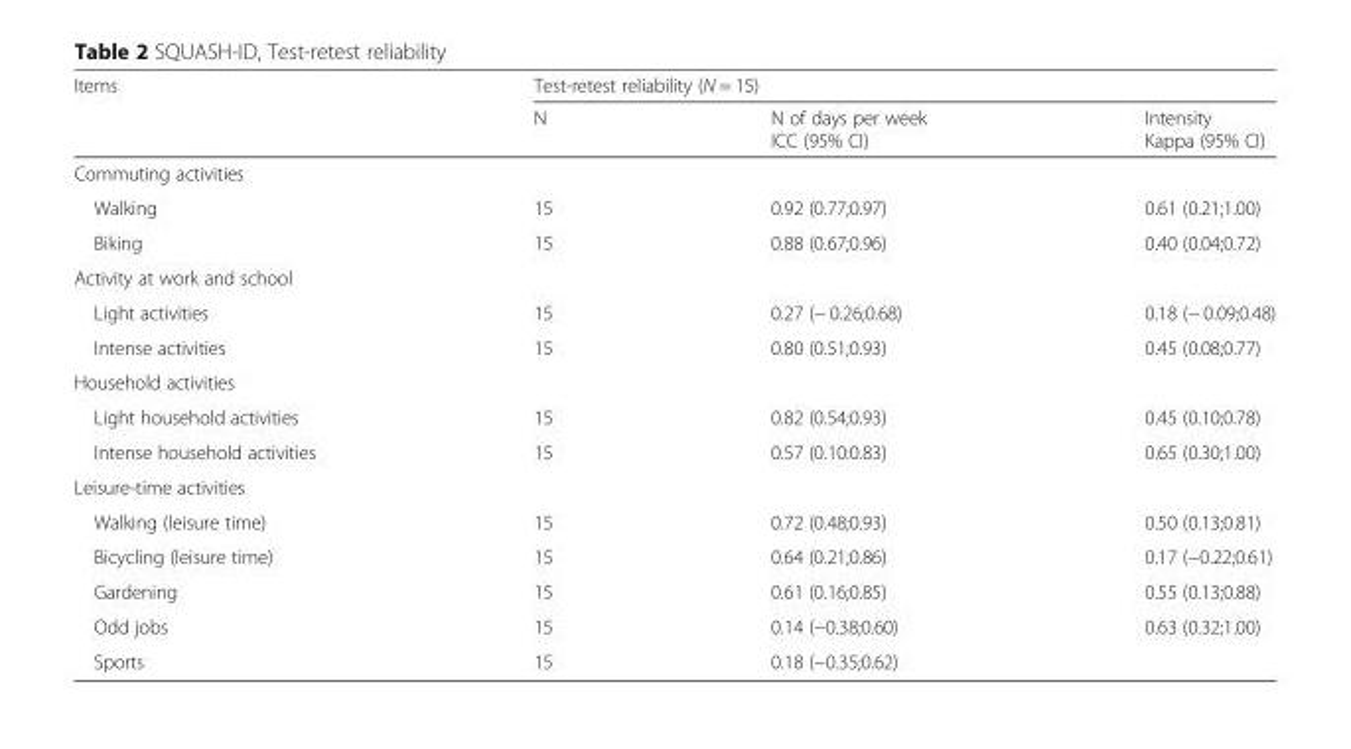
<table><thead><tr><td rowspan="2">Items</td><td colspan="3">Test-retest reliability (N = 15)</td></tr><tr><td>N</td><td>N of days per week ICC (95% CI)</td><td>Intensity Kappa (95% CI)</td></tr></thead><tbody><tr><td colspan="4">Commuting activities</td></tr><tr><td>Walking</td><td>15</td><td>0.92 (0.77;0.97)</td><td>0.61 (0.21;1.00)</td></tr><tr><td>Biking</td><td>15</td><td>0.88 (0.67;0.96)</td><td>0.40 (0.04;0.72)</td></tr><tr><td colspan="4">Activity at work and school</td></tr><tr><td>Light activities</td><td>15</td><td>0.27 (− 0.26;0.68)</td><td>0.18 (− 0.09;0.48)</td></tr><tr><td>Intense activities</td><td>15</td><td>0.80 (0.51;0.93)</td><td>0.45 (0.08;0.77)</td></tr><tr><td colspan="4">Household activities</td></tr><tr><td>Light household activities</td><td>15</td><td>0.82 (0.54;0.93)</td><td>0.45 (0.10;0.78)</td></tr><tr><td>Intense household activities</td><td>15</td><td>0.57 (0.10:0.83)</td><td>0.65 (0.30;1.00)</td></tr><tr><td colspan="4">Leisure-time activities</td></tr><tr><td>Walking (leisure time)</td><td>15</td><td>0.72 (0.48;0.93)</td><td>0.50 (0.13;0.81)</td></tr><tr><td>Bicycling (leisure time)</td><td>15</td><td>0.64 (0.21;0.86)</td><td>0.17 (−0.22;0.61)</td></tr><tr><td>Gardening</td><td>15</td><td>0.61 (0.16;0.85)</td><td>0.55 (0.13;0.88)</td></tr><tr><td>Odd jobs</td><td>15</td><td>0.14 (−0.38;0.60)</td><td>0.63 (0.32;1.00)</td></tr><tr><td>Sports</td><td>15</td><td>0.18 (−0.35;0.62)</td><td></td></tr></tbody></table>